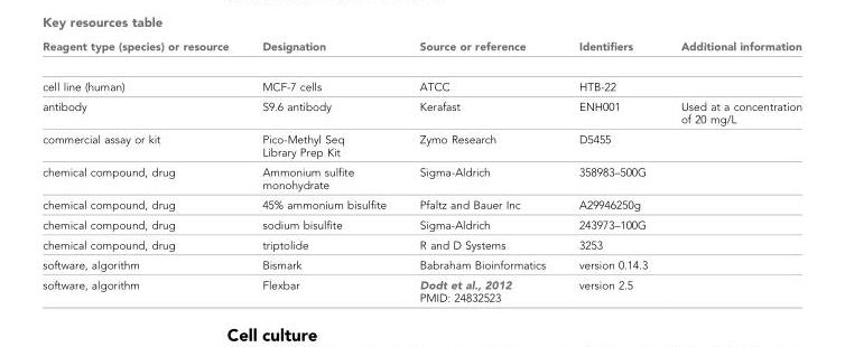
<table><thead><tr><td>Reagent type (species) or resource</td><td>Designation</td><td>Source or reference</td><td>Identifiers</td><td>Additional information</td></tr></thead><tbody><tr><td>cell line (human)</td><td>MCF-7 cells</td><td>ATCC</td><td>HTB-22</td><td></td></tr><tr><td>antibody</td><td>S9.6 antibody</td><td>Kerafast</td><td>ENH001</td><td>Used at a concentration of 20 mg/L</td></tr><tr><td>commercial assay or kit</td><td>Pico-Methyl Seq Library Prep Kit</td><td>Zymo Research</td><td>D5455</td><td></td></tr><tr><td>chemical compound, drug</td><td>Ammonium sulfite monohydrate</td><td>Sigma-Aldrich</td><td>358983–500G</td><td></td></tr><tr><td>chemical compound, drug</td><td>45% ammonium bisulfite</td><td>Pfaltz and Bauer Inc</td><td>A29946250g</td><td></td></tr><tr><td>chemical compound, drug</td><td>sodium bisulfite</td><td>Sigma-Aldrich</td><td>243973–100G</td><td></td></tr><tr><td>chemical compound, drug</td><td>triptolide</td><td>R and D Systems</td><td>3253</td><td></td></tr><tr><td>software, algorithm</td><td>Bismark</td><td>Babraham Bioinformatics</td><td>version 0.14.3</td><td></td></tr><tr><td>software, algorithm</td><td>Flexbar</td><td>Dodt et al., 2012 PMID: 24832523</td><td>version 2.5</td><td></td></tr></tbody></table>